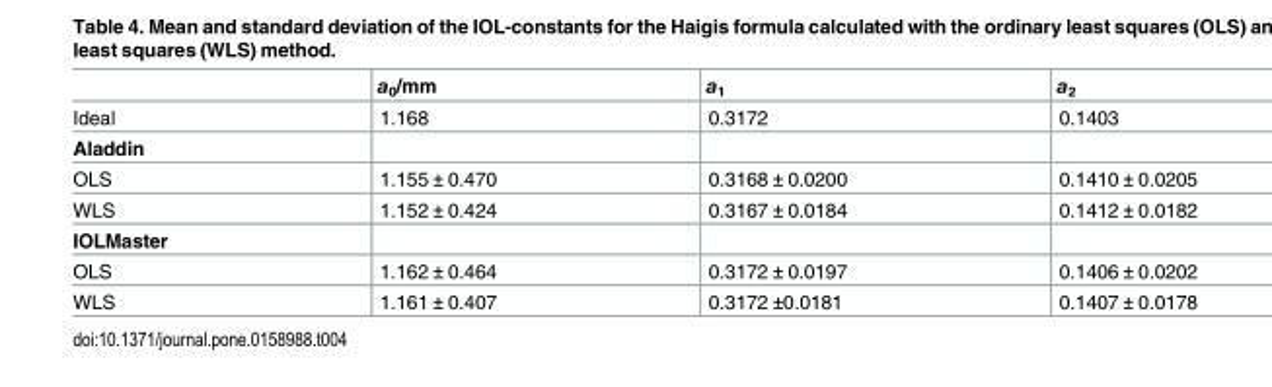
<table><thead><tr><td></td><td>a<sub>0</sub>/mm</td><td>a<sub>1</sub></td><td>a<sub>2</sub></td></tr></thead><tbody><tr><td>Ideal</td><td>1.168</td><td>0.3172</td><td>0.1403</td></tr><tr><td colspan="4">Aladdin</td></tr><tr><td>OLS</td><td>1.155 ± 0.470</td><td>0.3168 ± 0.0200</td><td>0.1410 ± 0.0205</td></tr><tr><td>WLS</td><td>1.152 ± 0.424</td><td>0.3167 ± 0.0184</td><td>0.1412 ± 0.0182</td></tr><tr><td colspan="4">IOLMaster</td></tr><tr><td>OLS</td><td>1.162 ± 0.464</td><td>0.3172 ± 0.0197</td><td>0.1406 ± 0.0202</td></tr><tr><td>WLS</td><td>1.161 ± 0.407</td><td>0.3172 ±0.0181</td><td>0.1407 ± 0.0178</td></tr></tbody></table>